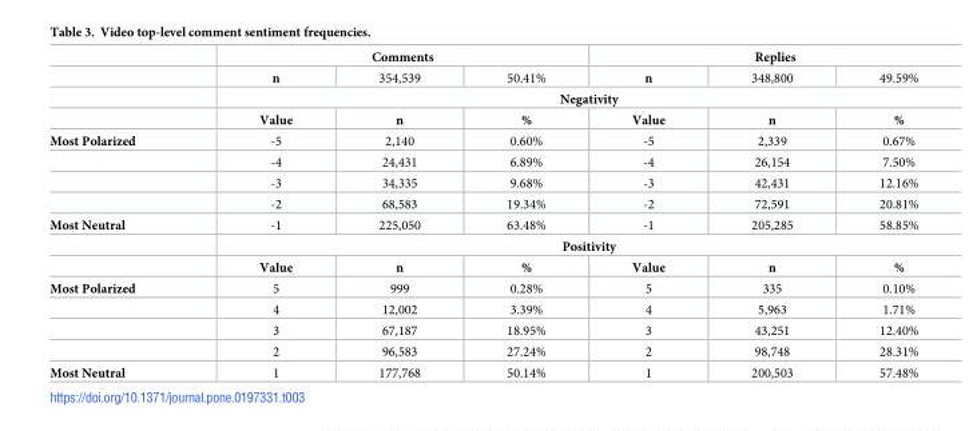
<table><thead><tr><td rowspan="2"></td><td colspan="3">Comments</td><td colspan="3">Replies</td></tr><tr><td>n</td><td>354,539</td><td>50.41%</td><td>n</td><td>348,800</td><td>49.59%</td></tr></thead><tbody><tr><td></td><td colspan="6">Negativity</td></tr><tr><td></td><td>Value</td><td>n</td><td>%</td><td>Value</td><td>n</td><td>%</td></tr><tr><td rowspan="4">Most Polarized</td><td>-5</td><td>2,140</td><td>0.60%</td><td>-5</td><td>2,339</td><td>0.67%</td></tr><tr><td>-4</td><td>24,431</td><td>6.89%</td><td>-4</td><td>26,154</td><td>7.50%</td></tr><tr><td>-3</td><td>34,335</td><td>9.68%</td><td>-3</td><td>42,431</td><td>12.16%</td></tr><tr><td>-2</td><td>68,583</td><td>19.34%</td><td>-2</td><td>72,591</td><td>20.81%</td></tr><tr><td rowspan="3">Most Neutral</td><td>-1</td><td>225,050</td><td>63.48%</td><td>-1</td><td>205,285</td><td>58.85%</td></tr><tr><td colspan="6">Positivity</td></tr><tr><td>Value</td><td>n</td><td>%</td><td>Value</td><td>n</td><td>%</td></tr><tr><td rowspan="4">Most Polarized</td><td>5</td><td>999</td><td>0.28%</td><td>5</td><td>335</td><td>0.10%</td></tr><tr><td>4</td><td>12,002</td><td>3.39%</td><td>4</td><td>5,963</td><td>1.71%</td></tr><tr><td>3</td><td>67,187</td><td>18.95%</td><td>3</td><td>43,251</td><td>12.40%</td></tr><tr><td>2</td><td>96,583</td><td>27.24%</td><td>2</td><td>98,748</td><td>28.31%</td></tr><tr><td>Most Neutral</td><td>1</td><td>177,768</td><td>50.14%</td><td>1</td><td>200,503</td><td>57.48%</td></tr></tbody></table>